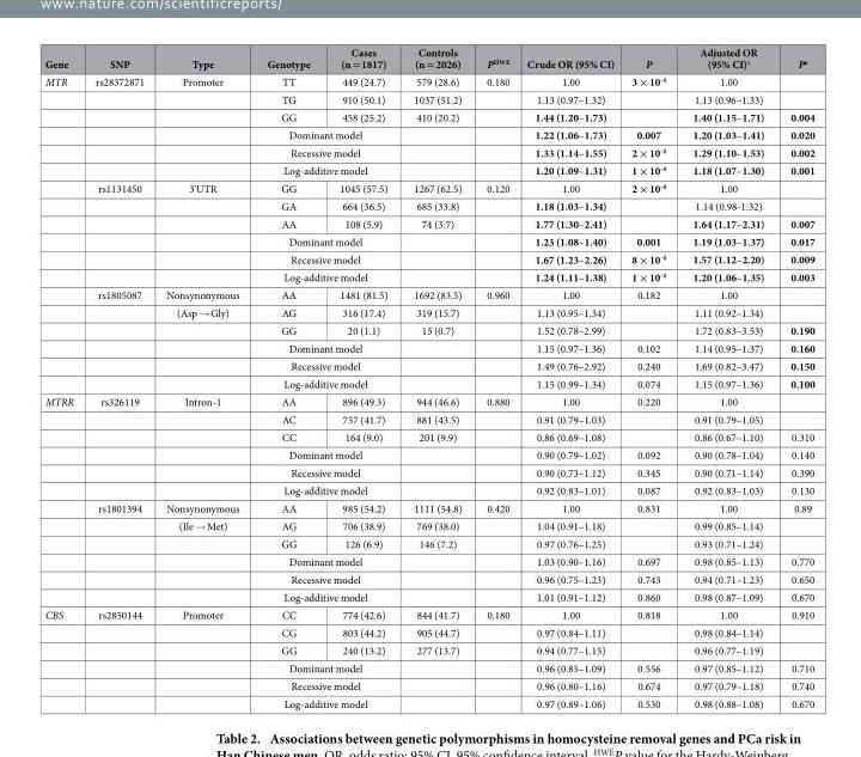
<table><thead><tr><td>Gene</td><td>SNP</td><td>Type</td><td>Genotype</td><td>Cases (n = 1817)</td><td>Controls (n = 2026)</td><td>P<sup>HWE</sup></td><td>Crude OR (95% CI)</td><td>P</td><td>Adjusted OR (95% CI)<sup>c</sup></td><td>P<sup>a</sup></td></tr></thead><tbody><tr><td rowspan="18">MTR</td><td>rs28372871</td><td>Promoter</td><td>TT</td><td>449 (24.7)</td><td>579 (28.6)</td><td>0.180</td><td>1.00</td><td>3 × 10<sup>-4</sup></td><td>1.00</td><td></td></tr><tr><td></td><td></td><td>TG</td><td>910 (50.1)</td><td>1037 (51.2)</td><td></td><td>1.13 (0.97–1.32)</td><td></td><td>1.13 (0.96–1.33)</td><td></td></tr><tr><td></td><td></td><td>GG</td><td>458 (25.2)</td><td>410 (20.2)</td><td></td><td>1.44 (1.20–1.73)</td><td></td><td>1.40 (1.15–1.71)</td><td>0.004</td></tr><tr><td></td><td></td><td colspan="2">Dominant model</td><td></td><td></td><td>1.22 (1.06–1.73)</td><td>0.007</td><td>1.20 (1.03–1.41)</td><td>0.020</td></tr><tr><td></td><td></td><td colspan="2">Recessive model</td><td></td><td></td><td>1.33 (1.14–1.55)</td><td>2 × 10<sup>-4</sup></td><td>1.29 (1.10–1.53)</td><td>0.002</td></tr><tr><td></td><td></td><td colspan="2">Log-additive model</td><td></td><td></td><td>1.20 (1.09–1.31)</td><td>1 × 10<sup>-4</sup></td><td>1.18 (1.07–1.30)</td><td>0.001</td></tr><tr><td>rs1131450</td><td>3&#x27;UTR</td><td>GG</td><td>1045 (57.5)</td><td>1267 (62.5)</td><td>0.120</td><td>1.00</td><td>2 × 10<sup>-4</sup></td><td>1.00</td><td></td></tr><tr><td></td><td></td><td>GA</td><td>664 (36.5)</td><td>685 (33.8)</td><td></td><td>1.18 (1.03–1.34)</td><td></td><td>1.14 (0.98-1.32)</td><td></td></tr><tr><td></td><td></td><td>AA</td><td>108 (5.9)</td><td>74 (3.7)</td><td></td><td>1.77 (1.30–2.41)</td><td></td><td>1.64 (1.17–2.31)</td><td>0.007</td></tr><tr><td></td><td></td><td colspan="2">Dominant model</td><td></td><td></td><td>1.23 (1.08–1.40)</td><td>0.001</td><td>1.19 (1.03–1.37)</td><td>0.017</td></tr><tr><td></td><td></td><td colspan="2">Recessive model</td><td></td><td></td><td>1.67 (1.23–2.26)</td><td>8 × 10<sup>-4</sup></td><td>1.57 (1.12–2.20)</td><td>0.009</td></tr><tr><td></td><td></td><td colspan="2">Log-additive model</td><td></td><td></td><td>1.24 (1.11–1.38)</td><td>1 × 10<sup>-4</sup></td><td>1.20 (1.06–1.35)</td><td>0.003</td></tr><tr><td>rs1805087</td><td>Nonsynonymous</td><td>AA</td><td>1481 (81.5)</td><td>1692 (83.5)</td><td>0.960</td><td>1.00</td><td>0.182</td><td>1.00</td><td></td></tr><tr><td></td><td>(Asp → Gly)</td><td>AG</td><td>316 (17.4)</td><td>319 (15.7)</td><td></td><td>1.13 (0.95–1.34)</td><td></td><td>1.11 (0.92–1.34)</td><td></td></tr><tr><td></td><td></td><td>GG</td><td>20 (1.1)</td><td>15 (0.7)</td><td></td><td>1.52 (0.78–2.99)</td><td></td><td>1.72 (0.83–3.53)</td><td>0.190</td></tr><tr><td></td><td></td><td colspan="2">Dominant model</td><td></td><td></td><td>1.15 (0.97–1.36)</td><td>0.102</td><td>1.14 (0.95–1.37)</td><td>0.160</td></tr><tr><td></td><td></td><td colspan="2">Recessive model</td><td></td><td></td><td>1.49 (0.76–2.92)</td><td>0.240</td><td>1.69 (0.82–3.47)</td><td>0.150</td></tr><tr><td></td><td></td><td colspan="2">Log-additive model</td><td></td><td></td><td>1.15 (0.99–1.34)</td><td>0.074</td><td>1.15 (0.97–1.36)</td><td>0.100</td></tr><tr><td rowspan="12">MTRR</td><td>rs326119</td><td>Intron-1</td><td>AA</td><td>896 (49.3)</td><td>944 (46.6)</td><td>0.880</td><td>1.00</td><td>0.220</td><td>1.00</td><td></td></tr><tr><td></td><td></td><td>AC</td><td>757 (41.7)</td><td>881 (43.5)</td><td></td><td>0.91 (0.79–1.03)</td><td></td><td>0.91 (0.79–1.05)</td><td></td></tr><tr><td></td><td></td><td>CC</td><td>164 (9.0)</td><td>201 (9.9)</td><td></td><td>0.86 (0.69–1.08)</td><td></td><td>0.86 (0.67–1.10)</td><td>0.310</td></tr><tr><td></td><td></td><td colspan="2">Dominant model</td><td></td><td></td><td>0.90 (0.79–1.02)</td><td>0.092</td><td>0.90 (0.78–1.04)</td><td>0.140</td></tr><tr><td></td><td></td><td colspan="2">Recessive model</td><td></td><td></td><td>0.90 (0.73–1.12)</td><td>0.345</td><td>0.90 (0.71–1.14)</td><td>0.390</td></tr><tr><td></td><td></td><td colspan="2">Log-additive model</td><td></td><td></td><td>0.92 (0.83–1.01)</td><td>0.087</td><td>0.92 (0.83–1.03)</td><td>0.130</td></tr><tr><td>rs1801394</td><td>Nonsynonymous</td><td>AA</td><td>985 (54.2)</td><td>1111 (54.8)</td><td>0.420</td><td>1.00</td><td>0.831</td><td>1.00</td><td>0.89</td></tr><tr><td></td><td>(Ile → Met)</td><td>AG</td><td>706 (38.9)</td><td>769 (38.0)</td><td></td><td>1.04 (0.91–1.18)</td><td></td><td>0.99 (0.85–1.14)</td><td></td></tr><tr><td></td><td></td><td>GG</td><td>126 (6.9)</td><td>146 (7.2)</td><td></td><td>0.97 (0.76–1.25)</td><td></td><td>0.93 (0.71–1.24)</td><td></td></tr><tr><td></td><td></td><td colspan="2">Dominant model</td><td></td><td></td><td>1.03 (0.90–1.16)</td><td>0.697</td><td>0.98 (0.85–1.13)</td><td>0.770</td></tr><tr><td></td><td></td><td colspan="2">Recessive model</td><td></td><td></td><td>0.96 (0.75–1.23)</td><td>0.743</td><td>0.94 (0.71–1.23)</td><td>0.650</td></tr><tr><td></td><td></td><td colspan="2">Log-additive model</td><td></td><td></td><td>1.01 (0.91–1.12)</td><td>0.860</td><td>0.98 (0.87–1.09)</td><td>0.670</td></tr><tr><td rowspan="6">CBS</td><td>rs2850144</td><td>Promoter</td><td>CC</td><td>774 (42.6)</td><td>844 (41.7)</td><td>0.180</td><td>1.00</td><td>0.818</td><td>1.00</td><td>0.910</td></tr><tr><td></td><td></td><td>CG</td><td>803 (44.2)</td><td>905 (44.7)</td><td></td><td>0.97 (0.84–1.11)</td><td></td><td>0.98 (0.84–1.14)</td><td></td></tr><tr><td></td><td></td><td>GG</td><td>240 (13.2)</td><td>277 (13.7)</td><td></td><td>0.94 (0.77–1.15)</td><td></td><td>0.96 (0.77–1.19)</td><td></td></tr><tr><td></td><td></td><td colspan="2">Dominant model</td><td></td><td></td><td>0.96 (0.85–1.09)</td><td>0.556</td><td>0.97 (0.85–1.12)</td><td>0.710</td></tr><tr><td></td><td></td><td colspan="2">Recessive model</td><td></td><td></td><td>0.96 (0.80–1.16)</td><td>0.674</td><td>0.97 (0.79–1.18)</td><td>0.740</td></tr><tr><td></td><td></td><td colspan="2">Log-additive model</td><td></td><td></td><td>0.97 (0.89–1.06)</td><td>0.530</td><td>0.98 (0.88–1.08)</td><td>0.670</td></tr></tbody></table>